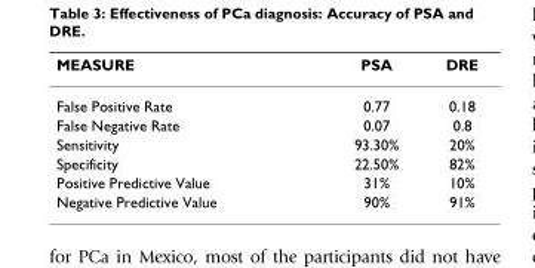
<table><thead><tr><td>MEASURE</td><td>PSA</td><td>DRE</td></tr></thead><tbody><tr><td>False Positive Rate</td><td>0.77</td><td>0.18</td></tr><tr><td>False Negative Rate</td><td>0.07</td><td>0.8</td></tr><tr><td>Sensitivity</td><td>93.30%</td><td>20%</td></tr><tr><td>Specificity</td><td>22.50%</td><td>82%</td></tr><tr><td>Positive Predictive Value</td><td>31%</td><td>10%</td></tr><tr><td>Negative Predictive Value</td><td>90%</td><td>91%</td></tr></tbody></table>